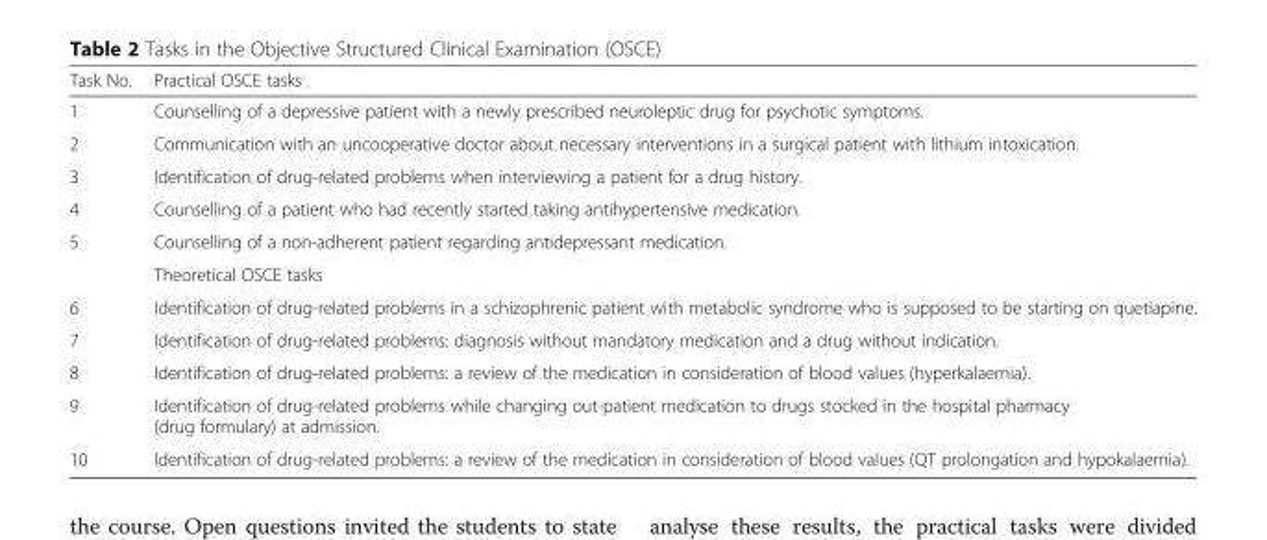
<table><thead><tr><td>Task No.</td><td>Practical OSCE tasks</td></tr></thead><tbody><tr><td>1</td><td>Counselling of a depressive patient with a newly prescribed neuroleptic drug for psychotic symptoms.</td></tr><tr><td>2</td><td>Communication with an uncooperative doctor about necessary interventions in a surgical patient with lithium intoxication.</td></tr><tr><td>3</td><td>Identification of drug-related problems when interviewing a patient for a drug history.</td></tr><tr><td>4</td><td>Counselling of a patient who had recently started taking antihypertensive medication.</td></tr><tr><td rowspan="2">5</td><td>Counselling of a non-adherent patient regarding antidepressant medication.</td></tr><tr><td>Theoretical OSCE tasks</td></tr><tr><td>6</td><td>Identification of drug-related problems in a schizophrenic patient with metabolic syndrome who is supposed to be starting on quetiapine.</td></tr><tr><td>7</td><td>Identification of drug-related problems: diagnosis without mandatory medication and a drug without indication.</td></tr><tr><td>8</td><td>Identification of drug-related problems: a review of the medication in consideration of blood values (hyperkalaemia).</td></tr><tr><td>9</td><td>Identification of drug-related problems while changing out-patient medication to drugs stocked in the hospital pharmacy (drug formulary) at admission.</td></tr><tr><td>10</td><td>Identification of drug-related problems: a review of the medication in consideration of blood values (QT prolongation and hypokalaemia).</td></tr></tbody></table>